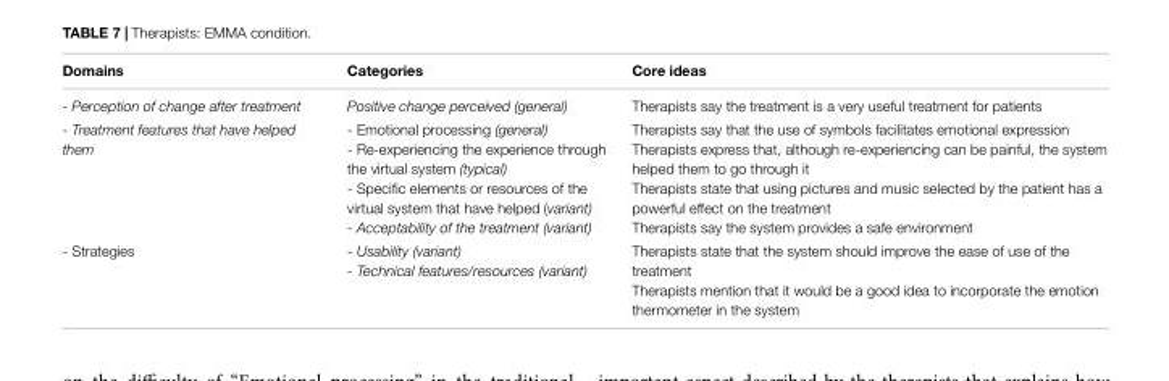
<table><thead><tr><td>Domains</td><td>Categories</td><td>Core ideas</td></tr></thead><tbody><tr><td>- Perception of change after treatment</td><td>Positive change perceived (general)</td><td>Therapists say the treatment is a very useful treatment for patients</td></tr><tr><td>- Treatment features that have helped them</td><td>- Emotional processing (general) - Re-experiencing the experience through the virtual system (typical) - Specific elements or resources of the virtual system that have helped (variant) - Acceptability of the treatment (variant)</td><td>Therapists say that the use of symbols facilitates emotional expression Therapists express that, although re-experiencing can be painful, the system helped them to go through it Therapists state that using pictures and music selected by the patient has a powerful effect on the treatment Therapists say the system provides a safe environment</td></tr><tr><td>- Strategies</td><td>- Usability (variant) - Technical features/resources (variant)</td><td>Therapists state that the system should improve the ease of use of the treatment Therapists mention that it would be a good idea to incorporate the emotion thermometer in the system</td></tr></tbody></table>